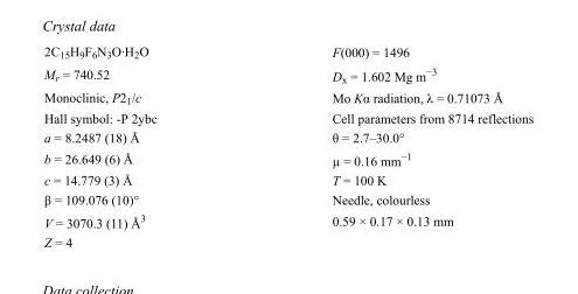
<table><tbody><tr><td>2C<sub>15</sub>H<sub>9</sub>F<sub>6</sub>N<sub>3</sub>O·H<sub>2</sub>O</td><td>F(000) = 1496</td></tr><tr><td>M<sub>r</sub> = 740.52</td><td>D<sub>x</sub> = 1.602 Mg m<sup>−3</sup></td></tr><tr><td>Monoclinic, P2<sub>1</sub>/c</td><td>Mo Kα radiation, λ = 0.71073 Å</td></tr><tr><td>Hall symbol: -P 2ybc</td><td>Cell parameters from 8714 reflections</td></tr><tr><td>a = 8.2487 (18) Å</td><td>θ = 2.7–30.0°</td></tr><tr><td>b = 26.649 (6) Å</td><td>µ = 0.16 mm<sup>−1</sup></td></tr><tr><td>c = 14.779 (3) Å</td><td>T = 100 K</td></tr><tr><td>β = 109.076 (10)°</td><td>Needle, colourless</td></tr><tr><td>V = 3070.3 (11) Å<sup>3</sup></td><td>0.59 × 0.17 × 0.13 mm</td></tr><tr><td>Z = 4</td><td></td></tr></tbody></table>